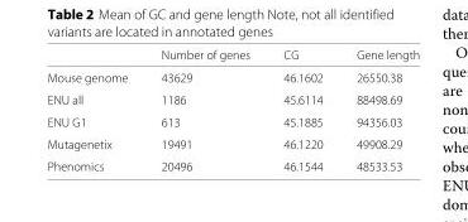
<table><thead><tr><td></td><td>Number of genes</td><td>CG</td><td>Gene length</td></tr></thead><tbody><tr><td>Mouse genome</td><td>43629</td><td>46.1602</td><td>26550.38</td></tr><tr><td>ENU all</td><td>1186</td><td>45.6114</td><td>88498.69</td></tr><tr><td>ENU G1</td><td>613</td><td>45.1885</td><td>94356.03</td></tr><tr><td>Mutagenetix</td><td>19491</td><td>46.1220</td><td>49908.29</td></tr><tr><td>Phenomics</td><td>20496</td><td>46.1544</td><td>48533.53</td></tr></tbody></table>